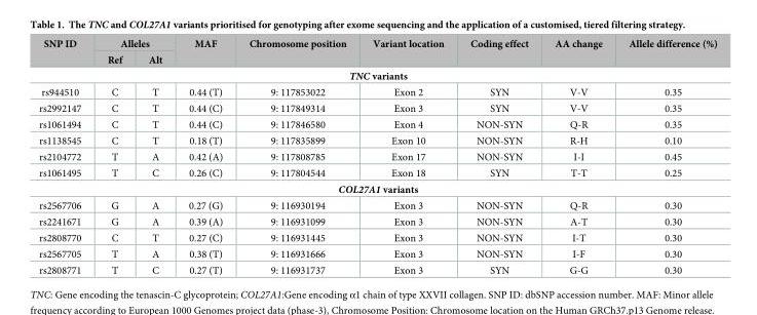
<table><thead><tr><td rowspan="2">SNP ID</td><td colspan="2">Alleles</td><td rowspan="2">MAF</td><td rowspan="2">Chromosome position</td><td rowspan="2">Variant location</td><td rowspan="2">Coding effect</td><td rowspan="2">AA change</td><td rowspan="2">Allele difference (%)</td></tr><tr><td>Ref</td><td>Alt</td></tr></thead><tbody><tr><td colspan="9">TNC variants</td></tr><tr><td>rs944510</td><td>C</td><td>T</td><td>0.44 (T)</td><td>9: 117853022</td><td>Exon 2</td><td>SYN</td><td>V-V</td><td>0.35</td></tr><tr><td>rs2992147</td><td>C</td><td>T</td><td>0.44 (C)</td><td>9: 117849314</td><td>Exon 3</td><td>SYN</td><td>V-V</td><td>0.35</td></tr><tr><td>rs1061494</td><td>C</td><td>T</td><td>0.44 (C)</td><td>9: 117846580</td><td>Exon 4</td><td>NON-SYN</td><td>Q-R</td><td>0.35</td></tr><tr><td>rs1138545</td><td>C</td><td>T</td><td>0.18 (T)</td><td>9: 117835899</td><td>Exon 10</td><td>NON-SYN</td><td>R-H</td><td>0.10</td></tr><tr><td>rs2104772</td><td>T</td><td>A</td><td>0.42 (A)</td><td>9: 117808785</td><td>Exon 17</td><td>NON-SYN</td><td>I-I</td><td>0.45</td></tr><tr><td>rs1061495</td><td>T</td><td>C</td><td>0.26 (C)</td><td>9: 117804544</td><td>Exon 18</td><td>SYN</td><td>T-T</td><td>0.25</td></tr><tr><td colspan="9">COL27A1 variants</td></tr><tr><td>rs2567706</td><td>G</td><td>A</td><td>0.27 (G)</td><td>9: 116930194</td><td>Exon 3</td><td>NON-SYN</td><td>Q-R</td><td>0.30</td></tr><tr><td>rs2241671</td><td>G</td><td>A</td><td>0.39 (A)</td><td>9: 116931099</td><td>Exon 3</td><td>NON-SYN</td><td>A-T</td><td>0.30</td></tr><tr><td>rs2808770</td><td>C</td><td>T</td><td>0.27 (C)</td><td>9: 116931445</td><td>Exon 3</td><td>NON-SYN</td><td>I-T</td><td>0.30</td></tr><tr><td>rs2567705</td><td>T</td><td>A</td><td>0.38 (T)</td><td>9: 116931666</td><td>Exon 3</td><td>NON-SYN</td><td>I-F</td><td>0.30</td></tr><tr><td>rs2808771</td><td>T</td><td>C</td><td>0.27 (T)</td><td>9: 116931737</td><td>Exon 3</td><td>SYN</td><td>G-G</td><td>0.30</td></tr></tbody></table>